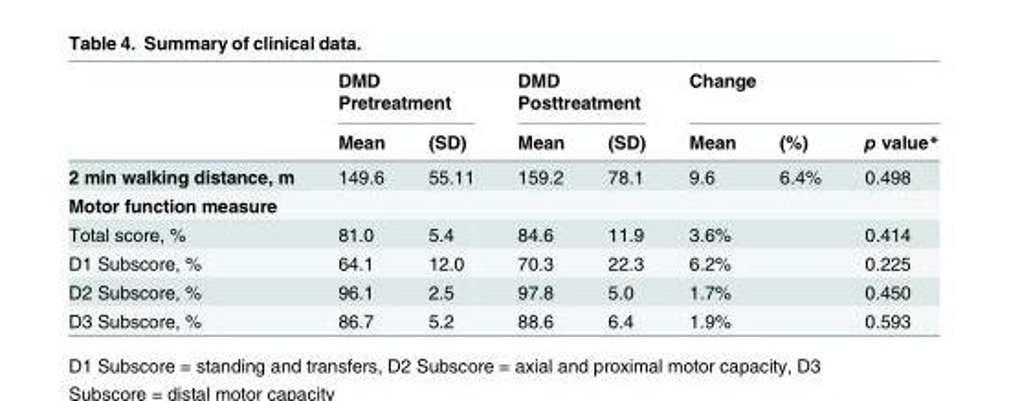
<table><thead><tr><td rowspan="2"></td><td colspan="2">DMD Pretreatment</td><td colspan="2">DMD Posttreatment</td><td colspan="3">Change</td></tr><tr><td>Mean</td><td>(SD)</td><td>Mean</td><td>(SD)</td><td>Mean</td><td>(%)</td><td>p value*</td></tr></thead><tbody><tr><td>2 min walking distance, m</td><td>149.6</td><td>55.11</td><td>159.2</td><td>78.1</td><td>9.6</td><td>6.4%</td><td>0.498</td></tr><tr><td colspan="8">Motor function measure</td></tr><tr><td>Total score, %</td><td>81.0</td><td>5.4</td><td>84.6</td><td>11.9</td><td>3.6%</td><td></td><td>0.414</td></tr><tr><td>D1 Subscore, %</td><td>64.1</td><td>12.0</td><td>70.3</td><td>22.3</td><td>6.2%</td><td></td><td>0.225</td></tr><tr><td>D2 Subscore, %</td><td>96.1</td><td>2.5</td><td>97.8</td><td>5.0</td><td>1.7%</td><td></td><td>0.450</td></tr><tr><td>D3 Subscore, %</td><td>86.7</td><td>5.2</td><td>88.6</td><td>6.4</td><td>1.9%</td><td></td><td>0.593</td></tr></tbody></table>